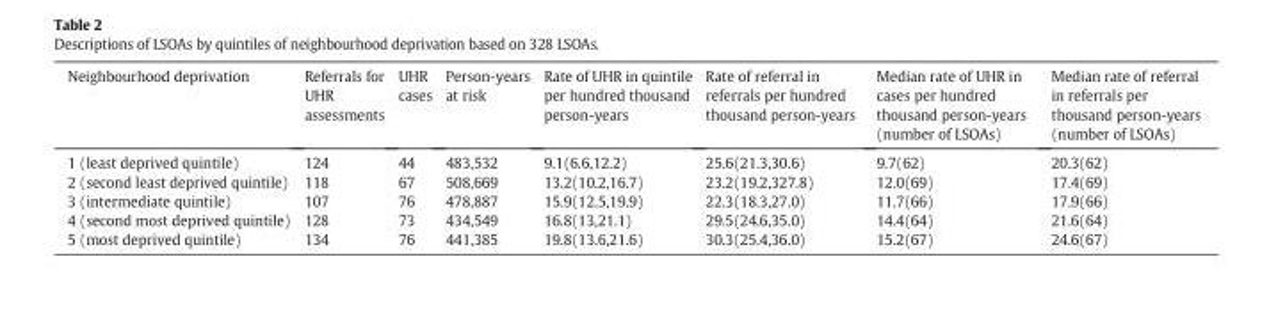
<table><thead><tr><td>Neighbourhood deprivation</td><td>Referrals for UHR assessments</td><td>UHR cases</td><td>Person-years at risk</td><td>Rate of UHR in quintile per hundred thousand person-years</td><td>Rate of referral in referrals per hundred thousand person-years</td><td>Median rate of UHR in cases per hundred thousand person-years (number of LSOAs)</td><td>Median rate of referral in referrals per thousand person-years (number of LSOAs)</td></tr></thead><tbody><tr><td>1 (least deprived quintile)</td><td>124</td><td>44</td><td>483,532</td><td>9.1(6.6,12.2)</td><td>25.6(21.3,30.6)</td><td>9.7(62)</td><td>20.3(62)</td></tr><tr><td>2 (second least deprived quintile)</td><td>118</td><td>67</td><td>508,669</td><td>13.2(10.2,16.7)</td><td>23.2(19.2,327.8)</td><td>12.0(69)</td><td>17.4(69)</td></tr><tr><td>3 (intermediate quintile)</td><td>107</td><td>76</td><td>478,887</td><td>15.9(12.5,19.9)</td><td>22.3(18.3,27.0)</td><td>11.7(66)</td><td>17.9(66)</td></tr><tr><td>4 (second most deprived quintile)</td><td>128</td><td>73</td><td>434,549</td><td>16.8(13,21.1)</td><td>29.5(24.6,35.0)</td><td>14.4(64)</td><td>21.6(64)</td></tr><tr><td>5 (most deprived quintile)</td><td>134</td><td>76</td><td>441,385</td><td>19.8(13.6,21.6)</td><td>30.3(25.4,36.0)</td><td>15.2(67)</td><td>24.6(67)</td></tr></tbody></table>